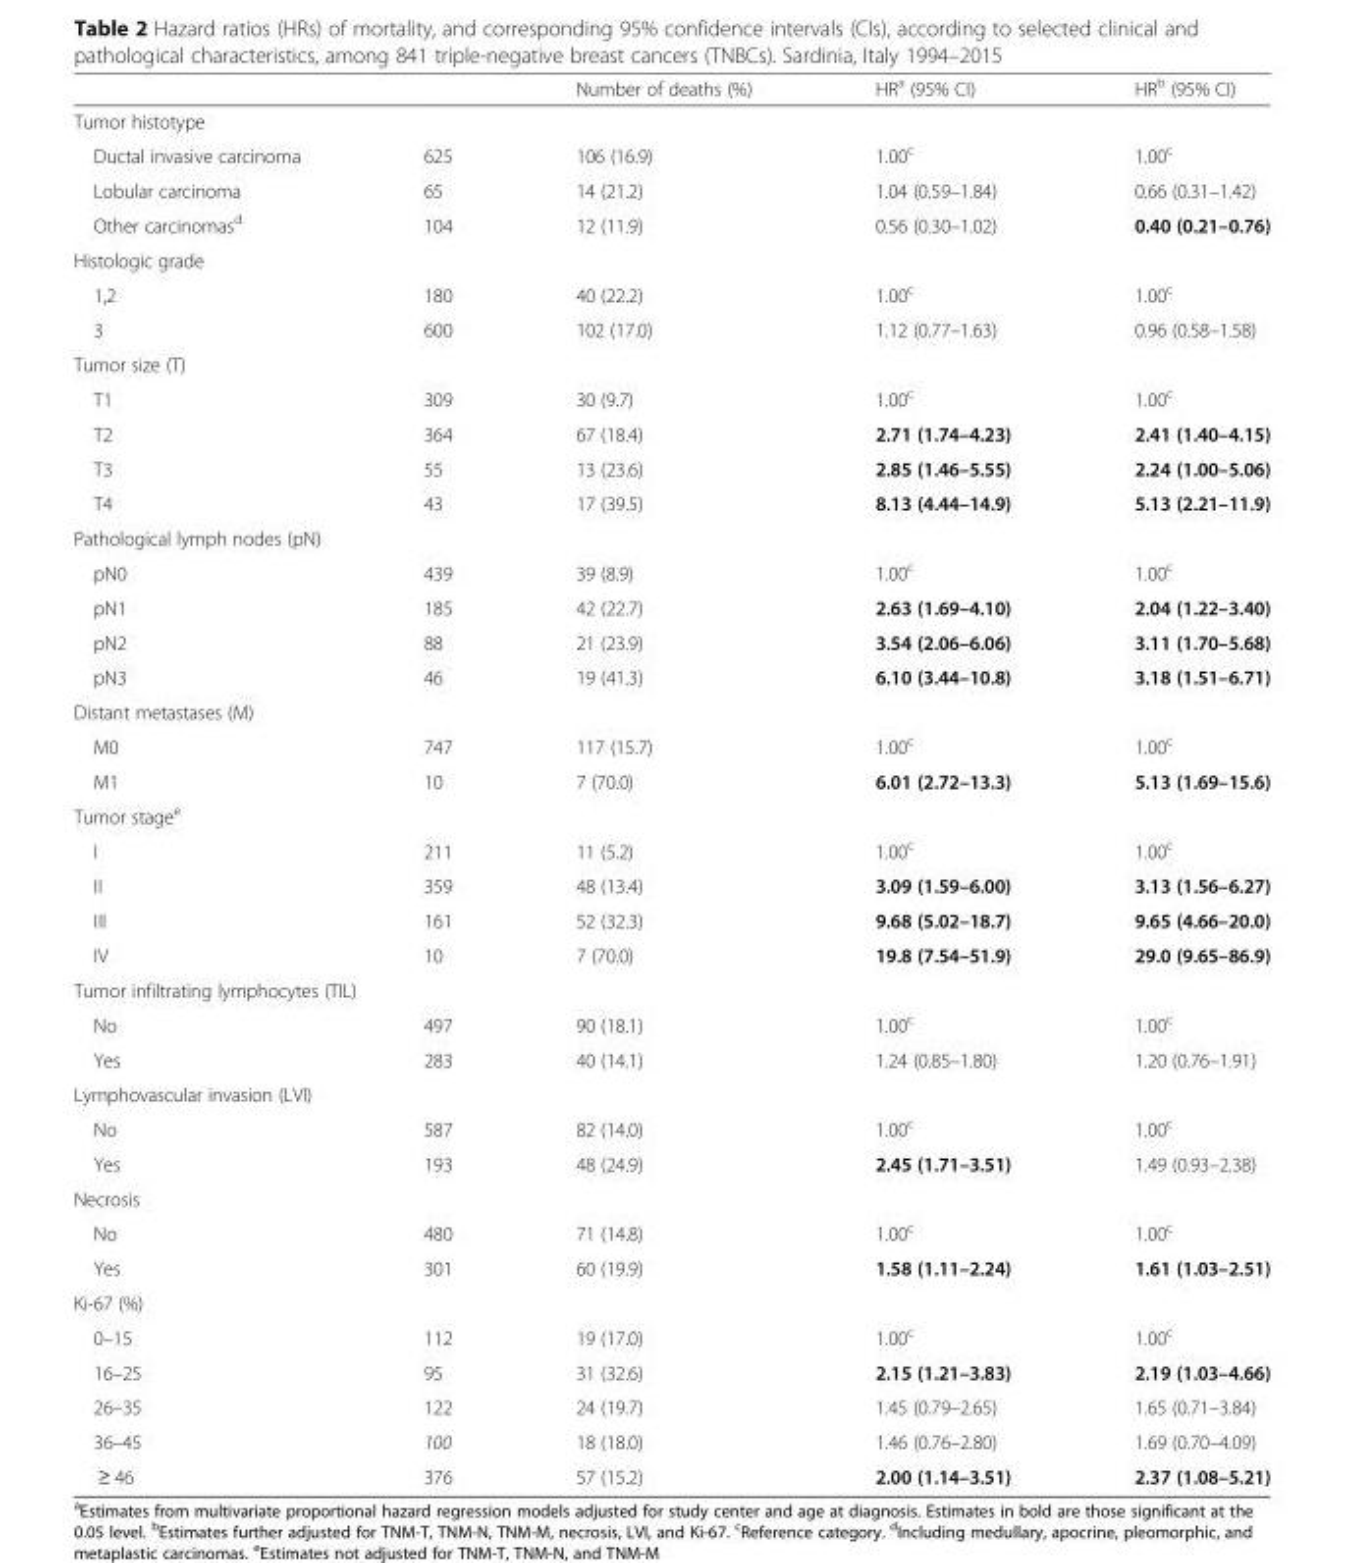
<table><thead><tr><td></td><td></td><td>Number of deaths (%)</td><td>HR<sup>a</sup> (95% CI)</td><td>HR<sup>b</sup> (95% CI)</td></tr></thead><tbody><tr><td colspan="5">Tumor histotype</td></tr><tr><td>Ductal invasive carcinoma</td><td>625</td><td>106 (16.9)</td><td>1.00<sup>c</sup></td><td>1.00<sup>c</sup></td></tr><tr><td>Lobular carcinoma</td><td>65</td><td>14 (21.2)</td><td>1.04 (0.59–1.84)</td><td>0.66 (0.31–1.42)</td></tr><tr><td>Other carcinomas<sup>d</sup></td><td>104</td><td>12 (11.9)</td><td>0.56 (0.30–1.02)</td><td>0.40 (0.21–0.76)</td></tr><tr><td colspan="5">Histologic grade</td></tr><tr><td>1,2</td><td>180</td><td>40 (22.2)</td><td>1.00<sup>c</sup></td><td>1.00<sup>c</sup></td></tr><tr><td>3</td><td>600</td><td>102 (17.0)</td><td>1.12 (0.77–1.63)</td><td>0.96 (0.58–1.58)</td></tr><tr><td colspan="5">Tumor size (T)</td></tr><tr><td>T1</td><td>309</td><td>30 (9.7)</td><td>1.00<sup>c</sup></td><td>1.00<sup>c</sup></td></tr><tr><td>T2</td><td>364</td><td>67 (18.4)</td><td>2.71 (1.74–4.23)</td><td>2.41 (1.40–4.15)</td></tr><tr><td>T3</td><td>55</td><td>13 (23.6)</td><td>2.85 (1.46–5.55)</td><td>2.24 (1.00–5.06)</td></tr><tr><td>T4</td><td>43</td><td>17 (39.5)</td><td>8.13 (4.44–14.9)</td><td>5.13 (2.21–11.9)</td></tr><tr><td colspan="5">Pathological lymph nodes (pN)</td></tr><tr><td>pN0</td><td>439</td><td>39 (8.9)</td><td>1.00<sup>c</sup></td><td>1.00<sup>c</sup></td></tr><tr><td>pN1</td><td>185</td><td>42 (22.7)</td><td>2.63 (1.69–4.10)</td><td>2.04 (1.22–3.40)</td></tr><tr><td>pN2</td><td>88</td><td>21 (23.9)</td><td>3.54 (2.06–6.06)</td><td>3.11 (1.70–5.68)</td></tr><tr><td>pN3</td><td>46</td><td>19 (41.3)</td><td>6.10 (3.44–10.8)</td><td>3.18 (1.51–6.71)</td></tr><tr><td colspan="5">Distant metastases (M)</td></tr><tr><td>M0</td><td>747</td><td>117 (15.7)</td><td>1.00<sup>c</sup></td><td>1.00<sup>c</sup></td></tr><tr><td>M1</td><td>10</td><td>7 (70.0)</td><td>6.01 (2.72–13.3)</td><td>5.13 (1.69–15.6)</td></tr><tr><td colspan="5">Tumor stage<sup>e</sup></td></tr><tr><td>I</td><td>211</td><td>11 (5.2)</td><td>1.00<sup>c</sup></td><td>1.00<sup>c</sup></td></tr><tr><td>II</td><td>359</td><td>48 (13.4)</td><td>3.09 (1.59–6.00)</td><td>3.13 (1.56–6.27)</td></tr><tr><td>III</td><td>161</td><td>52 (32.3)</td><td>9.68 (5.02–18.7)</td><td>9.65 (4.66–20.0)</td></tr><tr><td>IV</td><td>10</td><td>7 (70.0)</td><td>19.8 (7.54–51.9)</td><td>29.0 (9.65–86.9)</td></tr><tr><td colspan="5">Tumor infiltrating lymphocytes (TIL)</td></tr><tr><td>No</td><td>497</td><td>90 (18.1)</td><td>1.00<sup>c</sup></td><td>1.00<sup>c</sup></td></tr><tr><td>Yes</td><td>283</td><td>40 (14.1)</td><td>1.24 (0.85–1.80)</td><td>1.20 (0.76–1.91)</td></tr><tr><td colspan="5">Lymphovascular invasion (LVI)</td></tr><tr><td>No</td><td>587</td><td>82 (14.0)</td><td>1.00<sup>c</sup></td><td>1.00<sup>c</sup></td></tr><tr><td>Yes</td><td>193</td><td>48 (24.9)</td><td>2.45 (1.71–3.51)</td><td>1.49 (0.93–2.38)</td></tr><tr><td colspan="5">Necrosis</td></tr><tr><td>No</td><td>480</td><td>71 (14.8)</td><td>1.00<sup>c</sup></td><td>1.00<sup>c</sup></td></tr><tr><td>Yes</td><td>301</td><td>60 (19.9)</td><td>1.58 (1.11–2.24)</td><td>1.61 (1.03–2.51)</td></tr><tr><td colspan="5">Ki-67 (%)</td></tr><tr><td>0–15</td><td>112</td><td>19 (17.0)</td><td>1.00<sup>c</sup></td><td>1.00<sup>c</sup></td></tr><tr><td>16–25</td><td>95</td><td>31 (32.6)</td><td>2.15 (1.21–3.83)</td><td>2.19 (1.03–4.66)</td></tr><tr><td>26–35</td><td>122</td><td>24 (19.7)</td><td>1.45 (0.79–2.65)</td><td>1.65 (0.71–3.84)</td></tr><tr><td>36–45</td><td>100</td><td>18 (18.0)</td><td>1.46 (0.76–2.80)</td><td>1.69 (0.70–4.09)</td></tr><tr><td>≥ 46</td><td>376</td><td>57 (15.2)</td><td>2.00 (1.14–3.51)</td><td>2.37 (1.08–5.21)</td></tr></tbody></table>